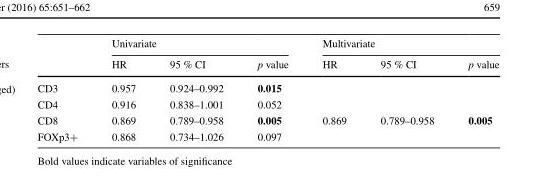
<table><thead><tr><td rowspan="2"></td><td colspan="3">Univariate</td><td colspan="3">Multivariate</td></tr><tr><td>HR</td><td>95 % CI</td><td>p value</td><td>HR</td><td>95 % CI</td><td>p value</td></tr></thead><tbody><tr><td>CD3</td><td>0.957</td><td>0.924–0.992</td><td>0.015</td><td></td><td></td><td></td></tr><tr><td>CD4</td><td>0.916</td><td>0.838–1.001</td><td>0.052</td><td></td><td></td><td></td></tr><tr><td>CD8</td><td>0.869</td><td>0.789–0.958</td><td>0.005</td><td>0.869</td><td>0.789–0.958</td><td>0.005</td></tr><tr><td>FOXp3+</td><td>0.868</td><td>0.734–1.026</td><td>0.097</td><td></td><td></td><td></td></tr></tbody></table>